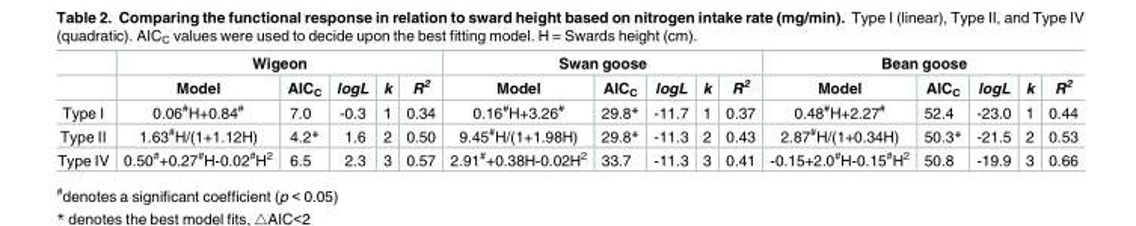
<table><thead><tr><td rowspan="2"></td><td colspan="5">Wigeon</td><td colspan="5">Swan goose</td><td colspan="5">Bean goose</td></tr><tr><td>Model</td><td>AIC<sub>C</sub></td><td>logL</td><td>k</td><td>R<sup>2</sup></td><td>Model</td><td>AIC<sub>C</sub></td><td>logL</td><td>k</td><td>R<sup>2</sup></td><td>Model</td><td>AIC<sub>C</sub></td><td>logL</td><td>k</td><td>R<sup>2</sup></td></tr></thead><tbody><tr><td>Type I</td><td>0.06<sup>#</sup>H+0.84<sup>#</sup></td><td>7.0</td><td>-0.3</td><td>1</td><td>0.34</td><td>0.16<sup>#</sup>H+3.26<sup>#</sup></td><td>29.8*</td><td>-11.7</td><td>1</td><td>0.37</td><td>0.48<sup>#</sup>H+2.27<sup>#</sup></td><td>52.4</td><td>-23.0</td><td>1</td><td>0.44</td></tr><tr><td>Type II</td><td>1.63<sup>#</sup>H/(1+1.12H)</td><td>4.2*</td><td>1.6</td><td>2</td><td>0.50</td><td>9.45<sup>#</sup>H/(1+1.98H)</td><td>29.8*</td><td>-11.3</td><td>2</td><td>0.43</td><td>2.87<sup>#</sup>H/(1+0.34H)</td><td>50.3*</td><td>-21.5</td><td>2</td><td>0.53</td></tr><tr><td>Type IV</td><td>0.50<sup>#</sup>+0.27<sup>#</sup>H-0.02<sup>#</sup>H<sup>2</sup></td><td>6.5</td><td>2.3</td><td>3</td><td>0.57</td><td>2.91<sup>#</sup>+0.38H-0.02H<sup>2</sup></td><td>33.7</td><td>-11.3</td><td>3</td><td>0.41</td><td>-0.15+2.0<sup>#</sup>H-0.15<sup>#</sup>H<sup>2</sup></td><td>50.8</td><td>-19.9</td><td>3</td><td>0.66</td></tr></tbody></table>